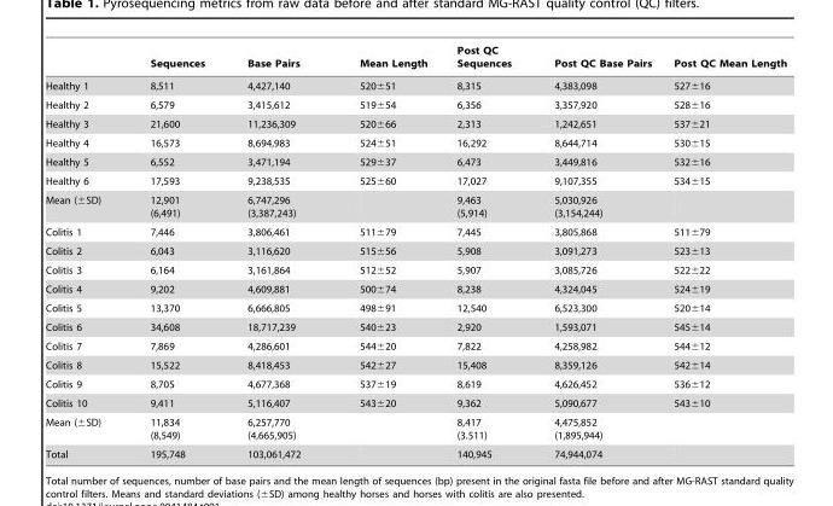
<table><thead><tr><td></td><td>Sequences</td><td>Base Pairs</td><td>Mean Length</td><td>Post QC Sequences</td><td>Post QC Base Pairs</td><td>Post QC Mean Length</td></tr></thead><tbody><tr><td>Healthy 1</td><td>8,511</td><td>4,427,140</td><td>520±51</td><td>8,315</td><td>4,383,098</td><td>527±16</td></tr><tr><td>Healthy 2</td><td>6,579</td><td>3,415,612</td><td>519±54</td><td>6,356</td><td>3,357,920</td><td>528±16</td></tr><tr><td>Healthy 3</td><td>21,600</td><td>11,236,309</td><td>520±66</td><td>2,313</td><td>1,242,651</td><td>537±21</td></tr><tr><td>Healthy 4</td><td>16,573</td><td>8,694,983</td><td>524±51</td><td>16,292</td><td>8,644,714</td><td>530±15</td></tr><tr><td>Healthy 5</td><td>6,552</td><td>3,471,194</td><td>529±37</td><td>6,473</td><td>3,449,816</td><td>532±16</td></tr><tr><td>Healthy 6</td><td>17,593</td><td>9,238,535</td><td>525±60</td><td>17,027</td><td>9,107,355</td><td>534±15</td></tr><tr><td>Mean (±SD)</td><td>12,901 (6,491)</td><td>6,747,296 (3,387,243)</td><td></td><td>9,463 (5,914)</td><td>5,030,926 (3,154,244)</td><td></td></tr><tr><td>Colitis 1</td><td>7,446</td><td>3,806,461</td><td>511±79</td><td>7,445</td><td>3,805,868</td><td>511±79</td></tr><tr><td>Colitis 2</td><td>6,043</td><td>3,116,620</td><td>515±56</td><td>5,908</td><td>3,091,273</td><td>523±13</td></tr><tr><td>Colitis 3</td><td>6,164</td><td>3,161,864</td><td>512±52</td><td>5,907</td><td>3,085,726</td><td>522±22</td></tr><tr><td>Colitis 4</td><td>9,202</td><td>4,609,881</td><td>500±74</td><td>8,238</td><td>4,324,045</td><td>524±19</td></tr><tr><td>Colitis 5</td><td>13,370</td><td>6,666,805</td><td>498±91</td><td>12,540</td><td>6,523,300</td><td>520±14</td></tr><tr><td>Colitis 6</td><td>34,608</td><td>18,717,239</td><td>540±23</td><td>2,920</td><td>1,593,071</td><td>545±14</td></tr><tr><td>Colitis 7</td><td>7,869</td><td>4,286,601</td><td>544±20</td><td>7,822</td><td>4,258,982</td><td>544±12</td></tr><tr><td>Colitis 8</td><td>15,522</td><td>8,418,453</td><td>542±27</td><td>15,408</td><td>8,359,126</td><td>542±14</td></tr><tr><td>Colitis 9</td><td>8,705</td><td>4,677,368</td><td>537±19</td><td>8,619</td><td>4,626,452</td><td>536±12</td></tr><tr><td>Colitis 10</td><td>9,411</td><td>5,116,407</td><td>543±20</td><td>9,362</td><td>5,090,677</td><td>543±10</td></tr><tr><td>Mean (±SD)</td><td>11,834 (8,549)</td><td>6,257,770 (4,665,905)</td><td></td><td>8,417 (3.511)</td><td>4,475,852 (1,895,944)</td><td></td></tr><tr><td>Total</td><td>195,748</td><td>103,061,472</td><td></td><td>140,945</td><td>74,944,074</td><td></td></tr></tbody></table>